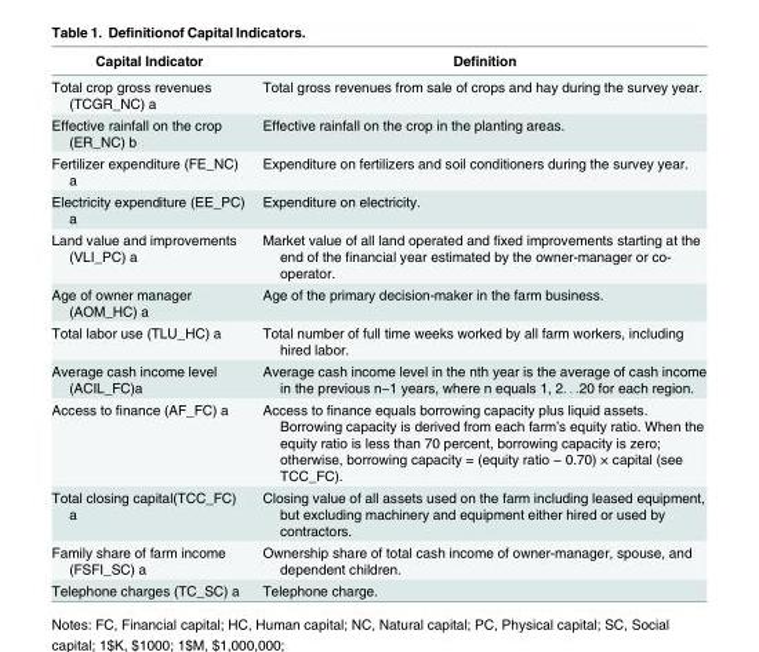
<table><thead><tr><td>Capital Indicator</td><td>Definition</td></tr></thead><tbody><tr><td>Total crop gross revenues (TCGR_NC) a</td><td>Total gross revenues from sale of crops and hay during the survey year.</td></tr><tr><td>Effective rainfall on the crop (ER_NC) b</td><td>Effective rainfall on the crop in the planting areas.</td></tr><tr><td>Fertilizer expenditure (FE_NC) a</td><td>Expenditure on fertilizers and soil conditioners during the survey year.</td></tr><tr><td>Electricity expenditure (EE_PC) a</td><td>Expenditure on electricity.</td></tr><tr><td>Land value and improvements (VLI_PC) a</td><td>Market value of all land operated and fixed improvements starting at the end of the financial year estimated by the owner-manager or co- operator.</td></tr><tr><td>Age of owner manager (AOM_HC) a</td><td>Age of the primary decision-maker in the farm business.</td></tr><tr><td>Total labor use (TLU_HC) a</td><td>Total number of full time weeks worked by all farm workers, including hired labor.</td></tr><tr><td>Average cash income level (ACIL_FC)a</td><td>Average cash income level in the nth year is the average of cash income in the previous n−1 years, where n equals 1, 2. . .20 for each region.</td></tr><tr><td>Access to finance (AF_FC) a</td><td>Access to finance equals borrowing capacity plus liquid assets. Borrowing capacity is derived from each farm’s equity ratio. When the equity ratio is less than 70 percent, borrowing capacity is zero; otherwise, borrowing capacity = (equity ratio − 0.70) × capital (see TCC_FC).</td></tr><tr><td>Total closing capital(TCC_FC) a</td><td>Closing value of all assets used on the farm including leased equipment, but excluding machinery and equipment either hired or used by contractors.</td></tr><tr><td>Family share of farm income (FSFI_SC) a</td><td>Ownership share of total cash income of owner-manager, spouse, and dependent children.</td></tr><tr><td>Telephone charges (TC_SC) a</td><td>Telephone charge.</td></tr></tbody></table>